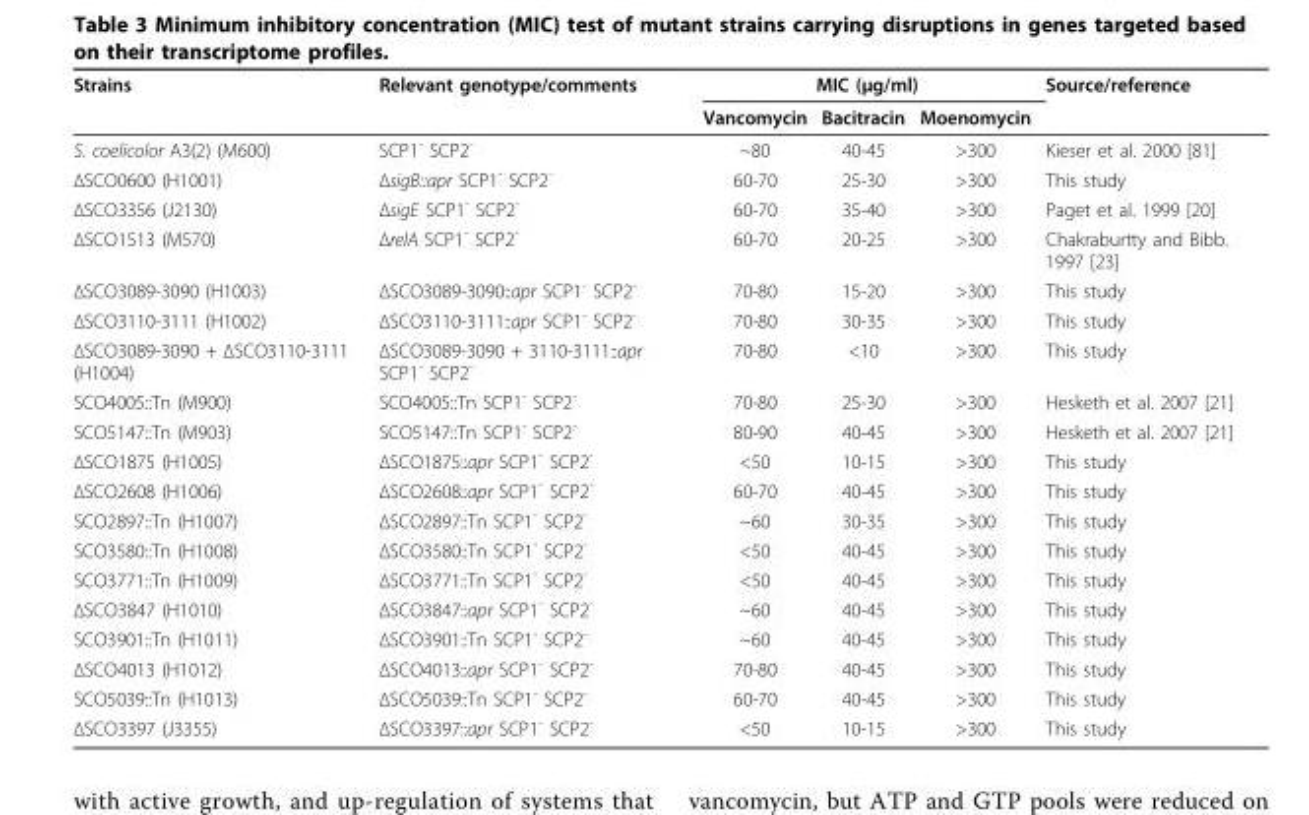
<table><thead><tr><td rowspan="2">Strains</td><td rowspan="2">Relevant genotype/comments</td><td colspan="3">MIC (μg/ml)</td><td rowspan="2">Source/reference</td></tr><tr><td>Vancomycin</td><td>Bacitracin</td><td>Moenomycin</td></tr></thead><tbody><tr><td>S. coelicolor A3(2) (M600)</td><td>SCP1<sup>-</sup> SCP2<sup>-</sup></td><td>~80</td><td>40-45</td><td>&gt;300</td><td>Kieser et al. 2000 [81]</td></tr><tr><td>ΔSCO0600 (H1001)</td><td>ΔsigB::apr SCP1<sup>-</sup> SCP2<sup>-</sup></td><td>60-70</td><td>25-30</td><td>&gt;300</td><td>This study</td></tr><tr><td>ΔSCO3356 (J2130)</td><td>ΔsigE SCP1<sup>-</sup> SCP2<sup>-</sup></td><td>60-70</td><td>35-40</td><td>&gt;300</td><td>Paget et al. 1999 [20]</td></tr><tr><td>ΔSCO1513 (M570)</td><td>ΔrelA SCP1<sup>-</sup> SCP2<sup>-</sup></td><td>60-70</td><td>20-25</td><td>&gt;300</td><td>Chakraburtty and Bibb. 1997 [23]</td></tr><tr><td>ΔSCO3089-3090 (H1003)</td><td>ΔSCO3089-3090::apr SCP1<sup>-</sup> SCP2<sup>-</sup></td><td>70-80</td><td>15-20</td><td>&gt;300</td><td>This study</td></tr><tr><td>ΔSCO3110-3111 (H1002)</td><td>ΔSCO3110-3111::apr SCP1<sup>-</sup> SCP2<sup>-</sup></td><td>70-80</td><td>30-35</td><td>&gt;300</td><td>This study</td></tr><tr><td>ΔSCO3089-3090 + ΔSCO3110-3111 (H1004)</td><td>ΔSCO3089-3090 + 3110-3111::apr SCP1<sup>-</sup> SCP2<sup>-</sup></td><td>70-80</td><td>&lt;10</td><td>&gt;300</td><td>This study</td></tr><tr><td>SCO4005::Tn (M900)</td><td>SCO4005::Tn SCP1<sup>-</sup> SCP2<sup>-</sup></td><td>70-80</td><td>25-30</td><td>&gt;300</td><td>Hesketh et al. 2007 [21]</td></tr><tr><td>SCO5147::Tn (M903)</td><td>SCO5147::Tn SCP1<sup>-</sup> SCP2<sup>-</sup></td><td>80-90</td><td>40-45</td><td>&gt;300</td><td>Hesketh et al. 2007 [21]</td></tr><tr><td>ΔSCO1875 (H1005)</td><td>ΔSCO1875::apr SCP1<sup>-</sup> SCP2<sup>-</sup></td><td>&lt;50</td><td>10-15</td><td>&gt;300</td><td>This study</td></tr><tr><td>ΔSCO2608 (H1006)</td><td>ΔSCO2608::apr SCP1<sup>-</sup> SCP2<sup>-</sup></td><td>60-70</td><td>40-45</td><td>&gt;300</td><td>This study</td></tr><tr><td>SCO2897::Tn (H1007)</td><td>ΔSCO2897::Tn SCP1<sup>-</sup> SCP2<sup>-</sup></td><td>~60</td><td>30-35</td><td>&gt;300</td><td>This study</td></tr><tr><td>SCO3580::Tn (H1008)</td><td>ΔSCO3580::Tn SCP1<sup>-</sup> SCP2<sup>-</sup></td><td>&lt;50</td><td>40-45</td><td>&gt;300</td><td>This study</td></tr><tr><td>SCO3771::Tn (H1009)</td><td>ΔSCO3771::Tn SCP1<sup>-</sup> SCP2<sup>-</sup></td><td>&lt;50</td><td>40-45</td><td>&gt;300</td><td>This study</td></tr><tr><td>ΔSCO3847 (H1010)</td><td>ΔSCO3847::apr SCP1<sup>-</sup> SCP2<sup>-</sup></td><td>~60</td><td>40-45</td><td>&gt;300</td><td>This study</td></tr><tr><td>SCO3901::Tn (H1011)</td><td>ΔSCO3901::Tn SCP1<sup>-</sup> SCP2<sup>-</sup></td><td>~60</td><td>40-45</td><td>&gt;300</td><td>This study</td></tr><tr><td>ΔSCO4013 (H1012)</td><td>ΔSCO4013::apr SCP1<sup>-</sup> SCP2<sup>-</sup></td><td>70-80</td><td>40-45</td><td>&gt;300</td><td>This study</td></tr><tr><td>SCO5039::Tn (H1013)</td><td>ΔSCO5039::Tn SCP1<sup>-</sup> SCP2<sup>-</sup></td><td>60-70</td><td>40-45</td><td>&gt;300</td><td>This study</td></tr><tr><td>ΔSCO3397 (J3355)</td><td>ΔSCO3397::apr SCP1<sup>-</sup> SCP2<sup>-</sup></td><td>&lt;50</td><td>10-15</td><td>&gt;300</td><td>This study</td></tr></tbody></table>